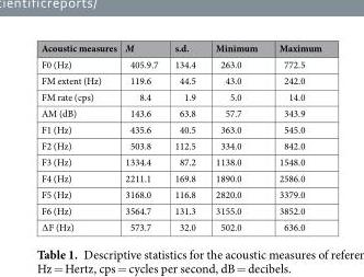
<table><thead><tr><td>Acoustic measures</td><td>M</td><td>s.d.</td><td>Minimum</td><td>Maximum</td></tr></thead><tbody><tr><td>F0 (Hz)</td><td>405.9.7</td><td>134.4</td><td>263.0</td><td>772.5</td></tr><tr><td>FM extent (Hz)</td><td>119.6</td><td>44.5</td><td>43.0</td><td>242.0</td></tr><tr><td>FM rate (cps)</td><td>8.4</td><td>1.9</td><td>5.0</td><td>14.0</td></tr><tr><td>AM (dB)</td><td>143.6</td><td>63.8</td><td>57.7</td><td>343.9</td></tr><tr><td>F1 (Hz)</td><td>435.6</td><td>40.5</td><td>363.0</td><td>545.0</td></tr><tr><td>F2 (Hz)</td><td>503.8</td><td>112.5</td><td>334.0</td><td>842.0</td></tr><tr><td>F3 (Hz)</td><td>1334.4</td><td>87.2</td><td>1138.0</td><td>1548.0</td></tr><tr><td>F4 (Hz)</td><td>2211.1</td><td>169.8</td><td>1890.0</td><td>2586.0</td></tr><tr><td>F5 (Hz)</td><td>3168.0</td><td>116.8</td><td>2820.0</td><td>3379.0</td></tr><tr><td>F6 (Hz)</td><td>3564.7</td><td>131.3</td><td>3155.0</td><td>3852.0</td></tr><tr><td>∆F (Hz)</td><td>573.7</td><td>32.0</td><td>502.0</td><td>636.0</td></tr></tbody></table>